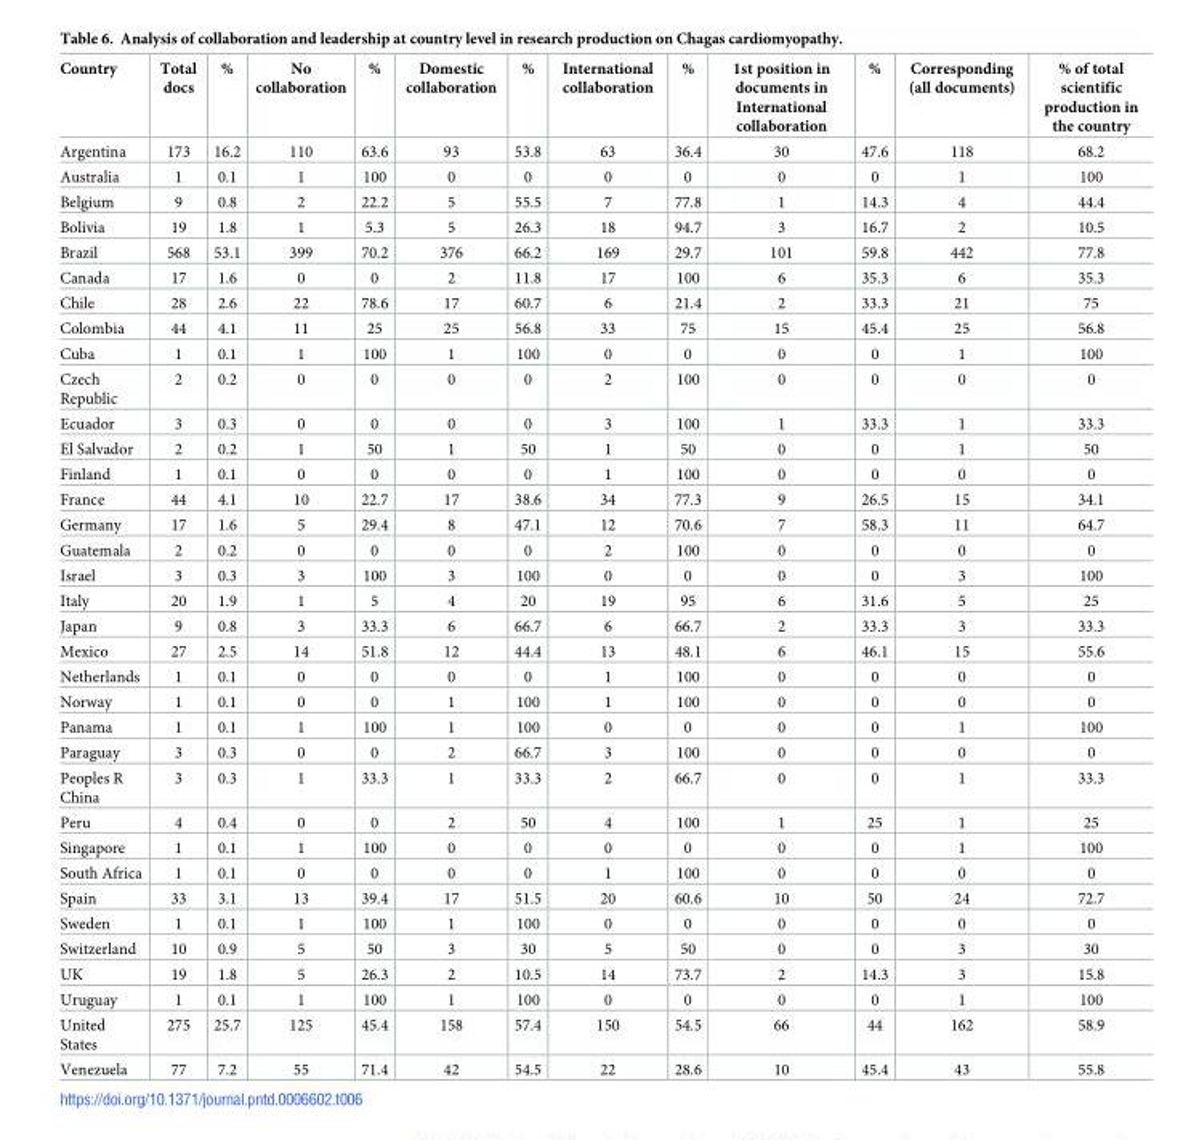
<table><thead><tr><td>Country</td><td>Total docs</td><td>%</td><td>No collaboration</td><td>%</td><td>Domestic collaboration</td><td>%</td><td>International collaboration</td><td>%</td><td>1st position in documents in International collaboration</td><td>%</td><td>Corresponding (all documents)</td><td>% of total scientific production in the country</td></tr></thead><tbody><tr><td>Argentina</td><td>173</td><td>16.2</td><td>110</td><td>63.6</td><td>93</td><td>53.8</td><td>63</td><td>36.4</td><td>30</td><td>47.6</td><td>118</td><td>68.2</td></tr><tr><td>Australia</td><td>1</td><td>0.1</td><td>1</td><td>100</td><td>0</td><td>0</td><td>0</td><td>0</td><td>0</td><td>0</td><td>1</td><td>100</td></tr><tr><td>Belgium</td><td>9</td><td>0.8</td><td>2</td><td>22.2</td><td>5</td><td>55.5</td><td>7</td><td>77.8</td><td>1</td><td>14.3</td><td>4</td><td>44.4</td></tr><tr><td>Bolivia</td><td>19</td><td>1.8</td><td>1</td><td>5.3</td><td>5</td><td>26.3</td><td>18</td><td>94.7</td><td>3</td><td>16.7</td><td>2</td><td>10.5</td></tr><tr><td>Brazil</td><td>568</td><td>53.1</td><td>399</td><td>70.2</td><td>376</td><td>66.2</td><td>169</td><td>29.7</td><td>101</td><td>59.8</td><td>442</td><td>77.8</td></tr><tr><td>Canada</td><td>17</td><td>1.6</td><td>0</td><td>0</td><td>2</td><td>11.8</td><td>17</td><td>100</td><td>6</td><td>35.3</td><td>6</td><td>35.3</td></tr><tr><td>Chile</td><td>28</td><td>2.6</td><td>22</td><td>78.6</td><td>17</td><td>60.7</td><td>6</td><td>21.4</td><td>2</td><td>33.3</td><td>21</td><td>75</td></tr><tr><td>Colombia</td><td>44</td><td>4.1</td><td>11</td><td>25</td><td>25</td><td>56.8</td><td>33</td><td>75</td><td>15</td><td>45.4</td><td>25</td><td>56.8</td></tr><tr><td>Cuba</td><td>1</td><td>0.1</td><td>1</td><td>100</td><td>1</td><td>100</td><td>0</td><td>0</td><td>0</td><td>0</td><td>1</td><td>100</td></tr><tr><td>Czech Republic</td><td>2</td><td>0.2</td><td>0</td><td>0</td><td>0</td><td>0</td><td>2</td><td>100</td><td>0</td><td>0</td><td>0</td><td>0</td></tr><tr><td>Ecuador</td><td>3</td><td>0.3</td><td>0</td><td>0</td><td>0</td><td>0</td><td>3</td><td>100</td><td>1</td><td>33.3</td><td>1</td><td>33.3</td></tr><tr><td>El Salvador</td><td>2</td><td>0.2</td><td>1</td><td>50</td><td>1</td><td>50</td><td>1</td><td>50</td><td>0</td><td>0</td><td>1</td><td>50</td></tr><tr><td>Finland</td><td>1</td><td>0.1</td><td>0</td><td>0</td><td>0</td><td>0</td><td>1</td><td>100</td><td>0</td><td>0</td><td>0</td><td>0</td></tr><tr><td>France</td><td>44</td><td>4.1</td><td>10</td><td>22.7</td><td>17</td><td>38.6</td><td>34</td><td>77.3</td><td>9</td><td>26.5</td><td>15</td><td>34.1</td></tr><tr><td>Germany</td><td>17</td><td>1.6</td><td>5</td><td>29.4</td><td>8</td><td>47.1</td><td>12</td><td>70.6</td><td>7</td><td>58.3</td><td>11</td><td>64.7</td></tr><tr><td>Guatemala</td><td>2</td><td>0.2</td><td>0</td><td>0</td><td>0</td><td>0</td><td>2</td><td>100</td><td>0</td><td>0</td><td>0</td><td>0</td></tr><tr><td>Israel</td><td>3</td><td>0.3</td><td>3</td><td>100</td><td>3</td><td>100</td><td>0</td><td>0</td><td>0</td><td>0</td><td>3</td><td>100</td></tr><tr><td>Italy</td><td>20</td><td>1.9</td><td>1</td><td>5</td><td>4</td><td>20</td><td>19</td><td>95</td><td>6</td><td>31.6</td><td>5</td><td>25</td></tr><tr><td>Japan</td><td>9</td><td>0.8</td><td>3</td><td>33.3</td><td>6</td><td>66.7</td><td>6</td><td>66.7</td><td>2</td><td>33.3</td><td>3</td><td>33.3</td></tr><tr><td>Mexico</td><td>27</td><td>2.5</td><td>14</td><td>51.8</td><td>12</td><td>44.4</td><td>13</td><td>48.1</td><td>6</td><td>46.1</td><td>15</td><td>55.6</td></tr><tr><td>Netherlands</td><td>1</td><td>0.1</td><td>0</td><td>0</td><td>0</td><td>0</td><td>1</td><td>100</td><td>0</td><td>0</td><td>0</td><td>0</td></tr><tr><td>Norway</td><td>1</td><td>0.1</td><td>0</td><td>0</td><td>1</td><td>100</td><td>1</td><td>100</td><td>0</td><td>0</td><td>0</td><td>0</td></tr><tr><td>Panama</td><td>1</td><td>0.1</td><td>1</td><td>100</td><td>1</td><td>100</td><td>0</td><td>0</td><td>0</td><td>0</td><td>1</td><td>100</td></tr><tr><td>Paraguay</td><td>3</td><td>0.3</td><td>0</td><td>0</td><td>2</td><td>66.7</td><td>3</td><td>100</td><td>0</td><td>0</td><td>0</td><td>0</td></tr><tr><td>Peoples R China</td><td>3</td><td>0.3</td><td>1</td><td>33.3</td><td>1</td><td>33.3</td><td>2</td><td>66.7</td><td>0</td><td>0</td><td>1</td><td>33.3</td></tr><tr><td>Peru</td><td>4</td><td>0.4</td><td>0</td><td>0</td><td>2</td><td>50</td><td>4</td><td>100</td><td>1</td><td>25</td><td>1</td><td>25</td></tr><tr><td>Singapore</td><td>1</td><td>0.1</td><td>1</td><td>100</td><td>0</td><td>0</td><td>0</td><td>0</td><td>0</td><td>0</td><td>1</td><td>100</td></tr><tr><td>South Africa</td><td>1</td><td>0.1</td><td>0</td><td>0</td><td>0</td><td>0</td><td>1</td><td>100</td><td>0</td><td>0</td><td>0</td><td>0</td></tr><tr><td>Spain</td><td>33</td><td>3.1</td><td>13</td><td>39.4</td><td>17</td><td>51.5</td><td>20</td><td>60.6</td><td>10</td><td>50</td><td>24</td><td>72.7</td></tr><tr><td>Sweden</td><td>1</td><td>0.1</td><td>1</td><td>100</td><td>1</td><td>100</td><td>0</td><td>0</td><td>0</td><td>0</td><td>0</td><td>0</td></tr><tr><td>Switzerland</td><td>10</td><td>0.9</td><td>5</td><td>50</td><td>3</td><td>30</td><td>5</td><td>50</td><td>0</td><td>0</td><td>3</td><td>30</td></tr><tr><td>UK</td><td>19</td><td>1.8</td><td>5</td><td>26.3</td><td>2</td><td>10.5</td><td>14</td><td>73.7</td><td>2</td><td>14.3</td><td>3</td><td>15.8</td></tr><tr><td>Uruguay</td><td>1</td><td>0.1</td><td>1</td><td>100</td><td>1</td><td>100</td><td>0</td><td>0</td><td>0</td><td>0</td><td>1</td><td>100</td></tr><tr><td>United States</td><td>275</td><td>25.7</td><td>125</td><td>45.4</td><td>158</td><td>57.4</td><td>150</td><td>54.5</td><td>66</td><td>44</td><td>162</td><td>58.9</td></tr><tr><td>Venezuela</td><td>77</td><td>7.2</td><td>55</td><td>71.4</td><td>42</td><td>54.5</td><td>22</td><td>28.6</td><td>10</td><td>45.4</td><td>43</td><td>55.8</td></tr></tbody></table>